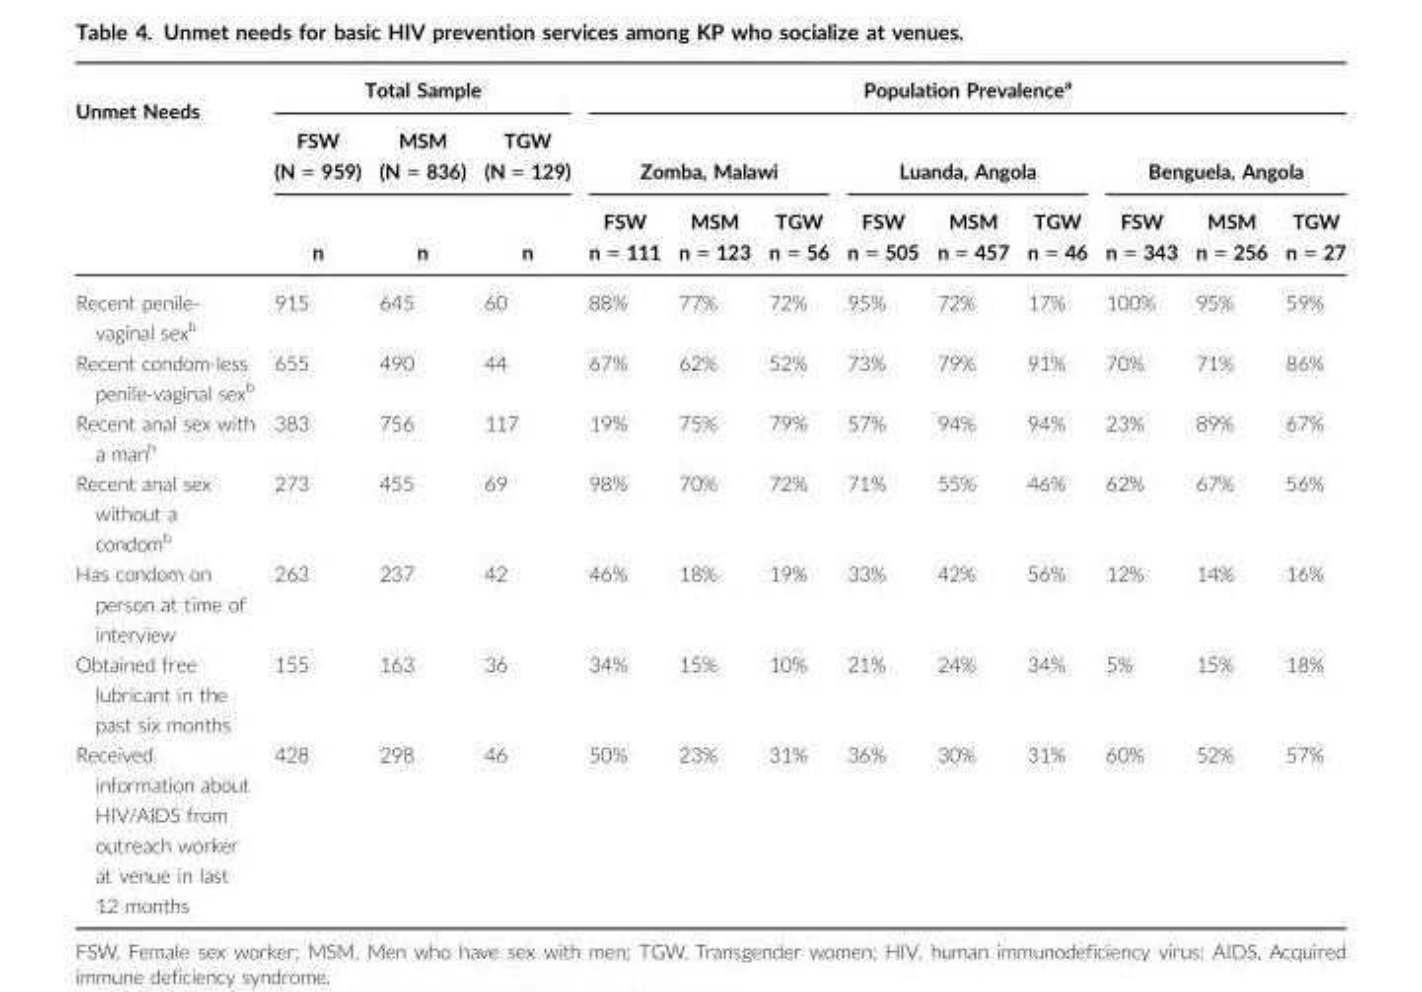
<table><thead><tr><td rowspan="3">Unmet Needs</td><td colspan="3">Total Sample</td><td colspan="9">Population Prevalence<sup>a</sup></td></tr><tr><td rowspan="2">FSW (N = 959) n</td><td rowspan="2">MSM (N = 836) n</td><td rowspan="2">TGW (N = 129) n</td><td colspan="3">Zomba, Malawi</td><td colspan="3">Luanda, Angola</td><td colspan="3">Benguela, Angola</td></tr><tr><td>FSW n = 111</td><td>MSM n = 123</td><td>TGW n = 56</td><td>FSW n = 505</td><td>MSM n = 457</td><td>TGW n = 46</td><td>FSW n = 343</td><td>MSM n = 256</td><td>TGW n = 27</td></tr></thead><tbody><tr><td>Recent penile- vaginal sex<sup>b</sup></td><td>915</td><td>645</td><td>60</td><td>88%</td><td>77%</td><td>72%</td><td>95%</td><td>72%</td><td>17%</td><td>100%</td><td>95%</td><td>59%</td></tr><tr><td>Recent condom-less penile-vaginal sex<sup>b</sup></td><td>655</td><td>490</td><td>44</td><td>67%</td><td>62%</td><td>52%</td><td>73%</td><td>79%</td><td>91%</td><td>70%</td><td>71%</td><td>86%</td></tr><tr><td>Recent anal sex with a man<sup>b</sup></td><td>383</td><td>756</td><td>117</td><td>19%</td><td>75%</td><td>79%</td><td>57%</td><td>94%</td><td>94%</td><td>23%</td><td>89%</td><td>67%</td></tr><tr><td>Recent anal sex without a condom<sup>b</sup></td><td>273</td><td>455</td><td>69</td><td>98%</td><td>70%</td><td>72%</td><td>71%</td><td>55%</td><td>46%</td><td>62%</td><td>67%</td><td>56%</td></tr><tr><td>Has condom on person at time of interview</td><td>263</td><td>237</td><td>42</td><td>46%</td><td>18%</td><td>19%</td><td>33%</td><td>42%</td><td>56%</td><td>12%</td><td>14%</td><td>16%</td></tr><tr><td>Obtained free lubricant in the past six months</td><td>155</td><td>163</td><td>36</td><td>34%</td><td>15%</td><td>10%</td><td>21%</td><td>24%</td><td>34%</td><td>5%</td><td>15%</td><td>18%</td></tr><tr><td>Received information about HIV/AIDS from outreach worker at venue in last 12 months</td><td>428</td><td>298</td><td>46</td><td>50%</td><td>23%</td><td>31%</td><td>36%</td><td>30%</td><td>31%</td><td>60%</td><td>52%</td><td>57%</td></tr></tbody></table>